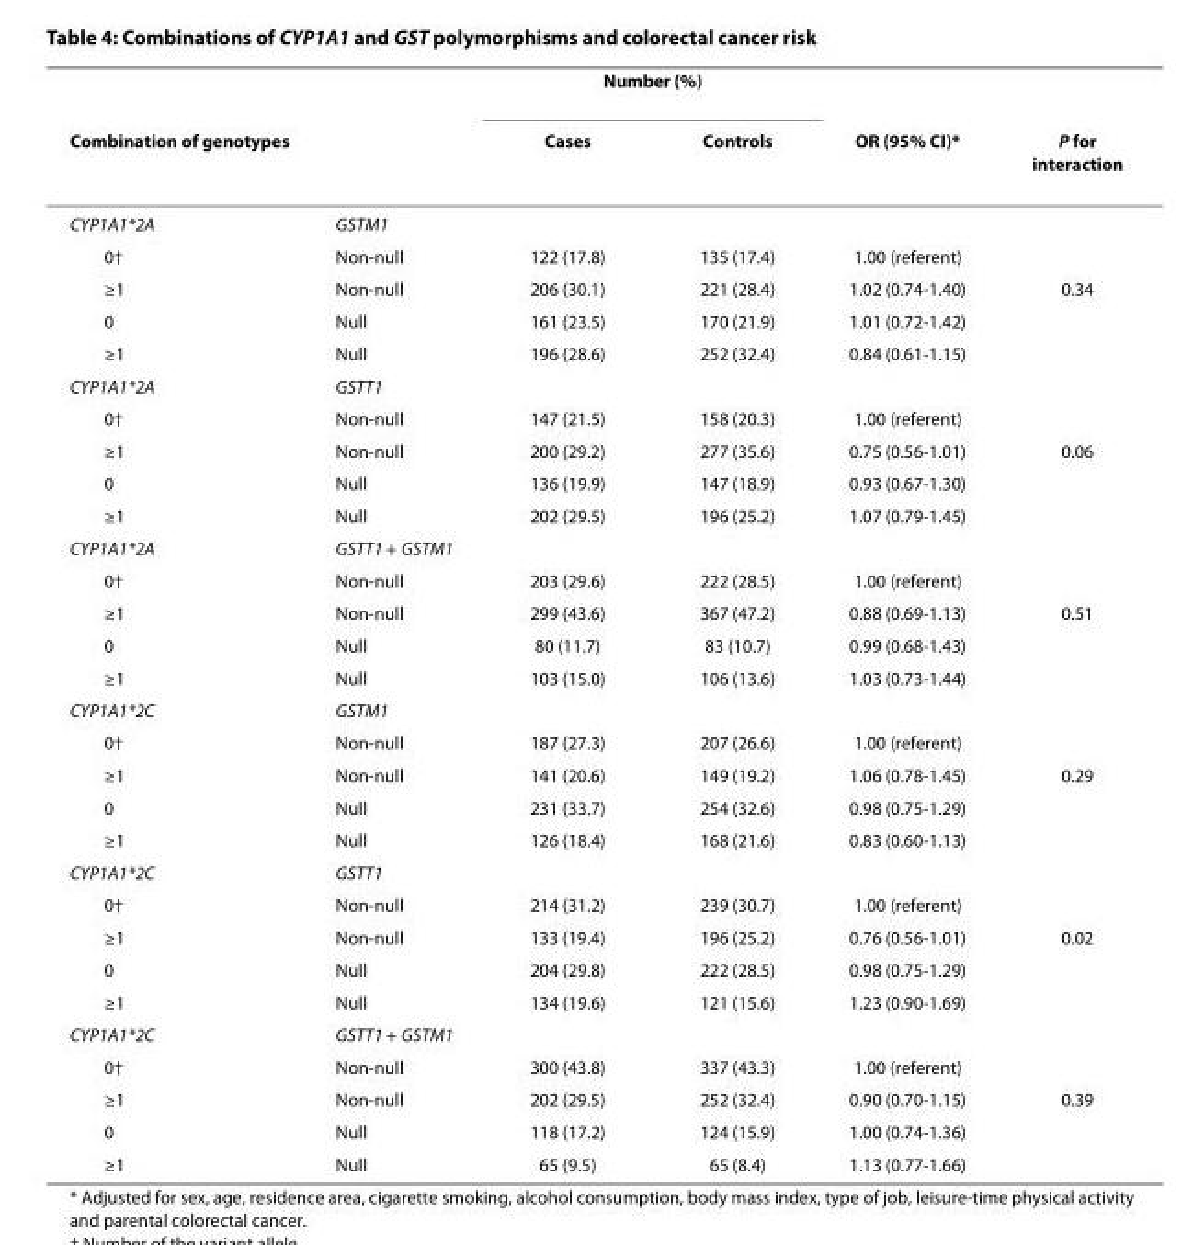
<table><thead><tr><td rowspan="2">Combination of genotypes</td><td rowspan="2"></td><td colspan="2">Number (%)</td><td rowspan="2">OR (95% CI)*</td><td rowspan="2">P for interaction</td></tr><tr><td>Cases</td><td>Controls</td></tr></thead><tbody><tr><td>CYP1A1*2A</td><td>GSTM1</td><td></td><td></td><td></td><td></td></tr><tr><td>0†</td><td>Non-null</td><td>122 (17.8)</td><td>135 (17.4)</td><td>1.00 (referent)</td><td></td></tr><tr><td>≥1</td><td>Non-null</td><td>206 (30.1)</td><td>221 (28.4)</td><td>1.02 (0.74-1.40)</td><td>0.34</td></tr><tr><td>0</td><td>Null</td><td>161 (23.5)</td><td>170 (21.9)</td><td>1.01 (0.72-1.42)</td><td></td></tr><tr><td>≥1</td><td>Null</td><td>196 (28.6)</td><td>252 (32.4)</td><td>0.84 (0.61-1.15)</td><td></td></tr><tr><td>CYP1A1*2A</td><td>GSTT1</td><td></td><td></td><td></td><td></td></tr><tr><td>0†</td><td>Non-null</td><td>147 (21.5)</td><td>158 (20.3)</td><td>1.00 (referent)</td><td></td></tr><tr><td>≥1</td><td>Non-null</td><td>200 (29.2)</td><td>277 (35.6)</td><td>0.75 (0.56-1.01)</td><td>0.06</td></tr><tr><td>0</td><td>Null</td><td>136 (19.9)</td><td>147 (18.9)</td><td>0.93 (0.67-1.30)</td><td></td></tr><tr><td>≥1</td><td>Null</td><td>202 (29.5)</td><td>196 (25.2)</td><td>1.07 (0.79-1.45)</td><td></td></tr><tr><td>CYP1A1*2A</td><td>GSTT1 + GSTM1</td><td></td><td></td><td></td><td></td></tr><tr><td>0†</td><td>Non-null</td><td>203 (29.6)</td><td>222 (28.5)</td><td>1.00 (referent)</td><td></td></tr><tr><td>≥1</td><td>Non-null</td><td>299 (43.6)</td><td>367 (47.2)</td><td>0.88 (0.69-1.13)</td><td>0.51</td></tr><tr><td>0</td><td>Null</td><td>80 (11.7)</td><td>83 (10.7)</td><td>0.99 (0.68-1.43)</td><td></td></tr><tr><td>≥1</td><td>Null</td><td>103 (15.0)</td><td>106 (13.6)</td><td>1.03 (0.73-1.44)</td><td></td></tr><tr><td>CYP1A1*2C</td><td>GSTM1</td><td></td><td></td><td></td><td></td></tr><tr><td>0†</td><td>Non-null</td><td>187 (27.3)</td><td>207 (26.6)</td><td>1.00 (referent)</td><td></td></tr><tr><td>≥1</td><td>Non-null</td><td>141 (20.6)</td><td>149 (19.2)</td><td>1.06 (0.78-1.45)</td><td>0.29</td></tr><tr><td>0</td><td>Null</td><td>231 (33.7)</td><td>254 (32.6)</td><td>0.98 (0.75-1.29)</td><td></td></tr><tr><td>≥1</td><td>Null</td><td>126 (18.4)</td><td>168 (21.6)</td><td>0.83 (0.60-1.13)</td><td></td></tr><tr><td>CYP1A1*2C</td><td>GSTT1</td><td></td><td></td><td></td><td></td></tr><tr><td>0†</td><td>Non-null</td><td>214 (31.2)</td><td>239 (30.7)</td><td>1.00 (referent)</td><td></td></tr><tr><td>≥1</td><td>Non-null</td><td>133 (19.4)</td><td>196 (25.2)</td><td>0.76 (0.56-1.01)</td><td>0.02</td></tr><tr><td>0</td><td>Null</td><td>204 (29.8)</td><td>222 (28.5)</td><td>0.98 (0.75-1.29)</td><td></td></tr><tr><td>≥1</td><td>Null</td><td>134 (19.6)</td><td>121 (15.6)</td><td>1.23 (0.90-1.69)</td><td></td></tr><tr><td>CYP1A1*2C</td><td>GSTT1 + GSTM1</td><td></td><td></td><td></td><td></td></tr><tr><td>0†</td><td>Non-null</td><td>300 (43.8)</td><td>337 (43.3)</td><td>1.00 (referent)</td><td></td></tr><tr><td>≥1</td><td>Non-null</td><td>202 (29.5)</td><td>252 (32.4)</td><td>0.90 (0.70-1.15)</td><td>0.39</td></tr><tr><td>0</td><td>Null</td><td>118 (17.2)</td><td>124 (15.9)</td><td>1.00 (0.74-1.36)</td><td></td></tr><tr><td>≥1</td><td>Null</td><td>65 (9.5)</td><td>65 (8.4)</td><td>1.13 (0.77-1.66)</td><td></td></tr></tbody></table>